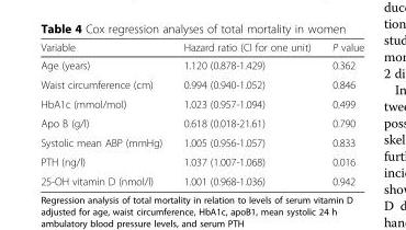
<table><thead><tr><td>Variable</td><td>Hazard ratio (CI for one unit)</td><td>P value</td></tr></thead><tbody><tr><td>Age (years)</td><td>1.120 (0.878-1.429)</td><td>0.362</td></tr><tr><td>Waist circumference (cm)</td><td>0.994 (0.940-1.052)</td><td>0.846</td></tr><tr><td>HbA1c (mmol/mol)</td><td>1.023 (0.957-1.094)</td><td>0.499</td></tr><tr><td>Apo B (g/l)</td><td>0.618 (0.018-21.61)</td><td>0.790</td></tr><tr><td>Systolic mean ABP (mmHg)</td><td>1.005 (0.956-1.057)</td><td>0.833</td></tr><tr><td>PTH (ng/l)</td><td>1.037 (1.007-1.068)</td><td>0.016</td></tr><tr><td>25-OH vitamin D (nmol/l)</td><td>1.001 (0.968-1.036)</td><td>0.942</td></tr></tbody></table>